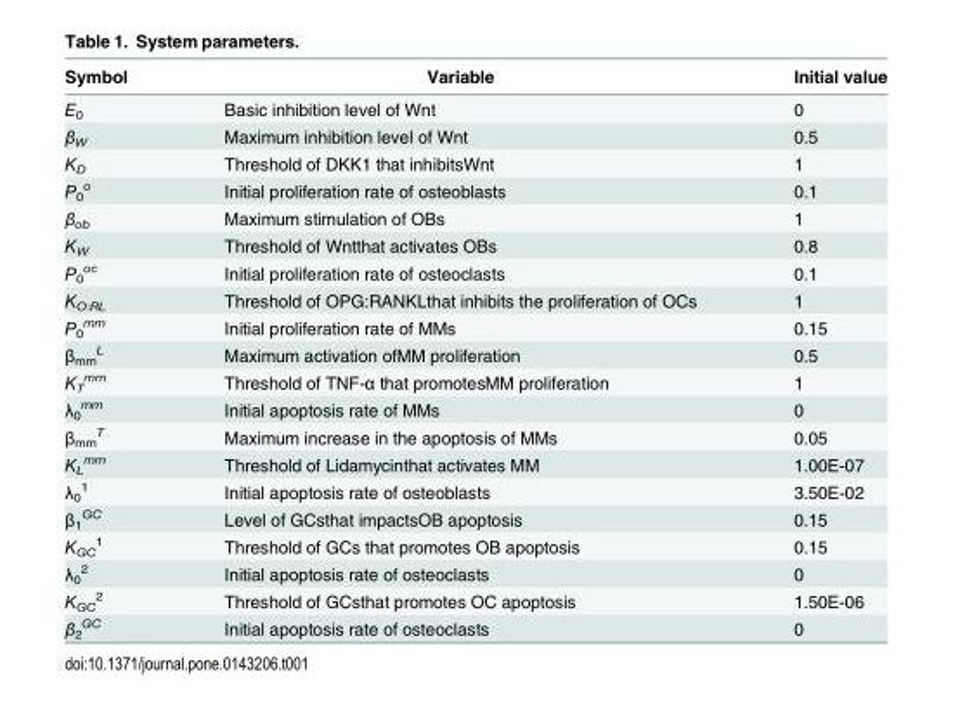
<table><thead><tr><td>Symbol</td><td>Variable</td><td>Initial value</td></tr></thead><tbody><tr><td>E<sub>0</sub></td><td>Basic inhibition level of Wnt</td><td>0</td></tr><tr><td>β<sub>W</sub></td><td>Maximum inhibition level of Wnt</td><td>0.5</td></tr><tr><td>K<sub>D</sub></td><td>Threshold of DKK1 that inhibitsWnt</td><td>1</td></tr><tr><td>P<sub>0</sub> <sup>o</sup></td><td>Initial proliferation rate of osteoblasts</td><td>0.1</td></tr><tr><td>β<sub>ob</sub></td><td>Maximum stimulation of OBs</td><td>1</td></tr><tr><td>K<sub>W</sub></td><td>Threshold of Wntthat activates OBs</td><td>0.8</td></tr><tr><td>P<sub>0</sub> <sup>oc</sup></td><td>Initial proliferation rate of osteoclasts</td><td>0.1</td></tr><tr><td>K<sub>O:RL</sub></td><td>Threshold of OPG:RANKLthat inhibits the proliferation of OCs</td><td>1</td></tr><tr><td>P<sub>0</sub> <sup>mm</sup></td><td>Initial proliferation rate of MMs</td><td>0.15</td></tr><tr><td>β<sub>mm</sub> <sup>L</sup></td><td>Maximum activation ofMM proliferation</td><td>0.5</td></tr><tr><td>K<sub>T</sub> <sup>mm</sup></td><td>Threshold of TNF-α that promotesMM proliferation</td><td>1</td></tr><tr><td>λ<sub>0</sub> <sup>mm</sup></td><td>Initial apoptosis rate of MMs</td><td>0</td></tr><tr><td>β<sub>mm</sub> <sup>T</sup></td><td>Maximum increase in the apoptosis of MMs</td><td>0.05</td></tr><tr><td>K<sub>L</sub> <sup>mm</sup></td><td>Threshold of Lidamycinthat activates MM</td><td>1.00E-07</td></tr><tr><td>λ<sub>0</sub> <sup>1</sup></td><td>Initial apoptosis rate of osteoblasts</td><td>3.50E-02</td></tr><tr><td>β<sub>1</sub> <sup>GC</sup></td><td>Level of GCsthat impactsOB apoptosis</td><td>0.15</td></tr><tr><td>K<sub>GC</sub> <sup>1</sup></td><td>Threshold of GCs that promotes OB apoptosis</td><td>0.15</td></tr><tr><td>λ<sub>0</sub> <sup>2</sup></td><td>Initial apoptosis rate of osteoclasts</td><td>0</td></tr><tr><td>K<sub>GC</sub> <sup>2</sup></td><td>Threshold of GCsthat promotes OC apoptosis</td><td>1.50E-06</td></tr><tr><td>β<sub>2</sub> <sup>GC</sup></td><td>Initial apoptosis rate of osteoclasts</td><td>0</td></tr></tbody></table>